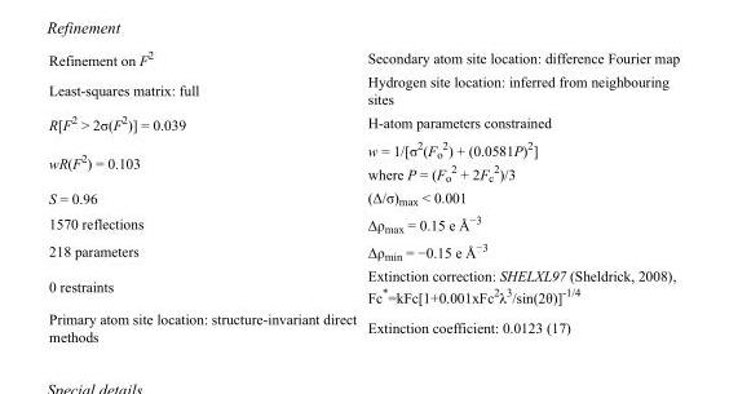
<table><tbody><tr><td>Refinement on F<sup>2</sup></td><td>Secondary atom site location: difference Fourier map</td></tr><tr><td>Least-squares matrix: full</td><td>Hydrogen site location: inferred from neighbouring sites</td></tr><tr><td>R[F<sup>2</sup> &gt; 2σ(F<sup>2</sup>)] = 0.039</td><td>H-atom parameters constrained</td></tr><tr><td>wR(F<sup>2</sup>) = 0.103</td><td>w = 1/[σ<sup>2</sup>(F<sub>o</sub> <sup>2</sup>) + (0.0581P)<sup>2</sup>] where P = (F<sub>o</sub> <sup>2</sup> + 2F<sub>c</sub> <sup>2</sup>)/3</td></tr><tr><td>S = 0.96</td><td>(Δ/σ)<sub>max</sub> &lt; 0.001</td></tr><tr><td>1570 reflections</td><td>Δρ<sub>max</sub> = 0.15 e Å<sup>−3</sup></td></tr><tr><td>218 parameters</td><td>Δρ<sub>min</sub> = −0.15 e Å<sup>−3</sup></td></tr><tr><td>0 restraints</td><td>Extinction correction: SHELXL97 (Sheldrick, 2008), Fc*=kFc[1+0.001xFc<sup>2</sup>λ<sup>3</sup>/sin(2θ)]<sup>-1/4</sup></td></tr><tr><td>Primary atom site location: structure-invariant direct methods</td><td>Extinction coefficient: 0.0123 (17)</td></tr></tbody></table>